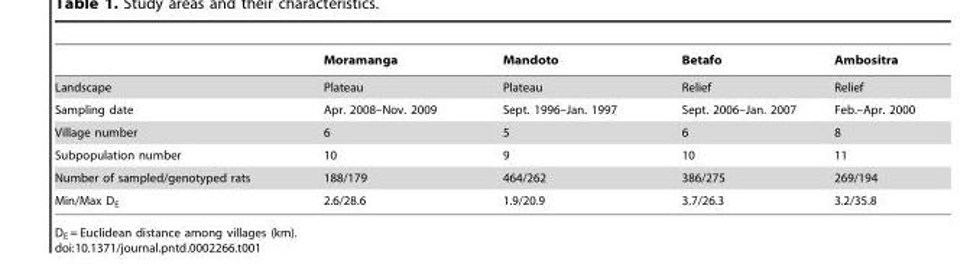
<table><thead><tr><td></td><td>Moramanga</td><td>Mandoto</td><td>Betafo</td><td>Ambositra</td></tr></thead><tbody><tr><td>Landscape</td><td>Plateau</td><td>Plateau</td><td>Relief</td><td>Relief</td></tr><tr><td>Sampling date</td><td>Apr. 2008–Nov. 2009</td><td>Sept. 1996–Jan. 1997</td><td>Sept. 2006–Jan. 2007</td><td>Feb.–Apr. 2000</td></tr><tr><td>Village number</td><td>6</td><td>5</td><td>6</td><td>8</td></tr><tr><td>Subpopulation number</td><td>10</td><td>9</td><td>10</td><td>11</td></tr><tr><td>Number of sampled/genotyped rats</td><td>188/179</td><td>464/262</td><td>386/275</td><td>269/194</td></tr><tr><td>Min/Max D<sub>E</sub></td><td>2.6/28.6</td><td>1.9/20.9</td><td>3.7/26.3</td><td>3.2/35.8</td></tr></tbody></table>